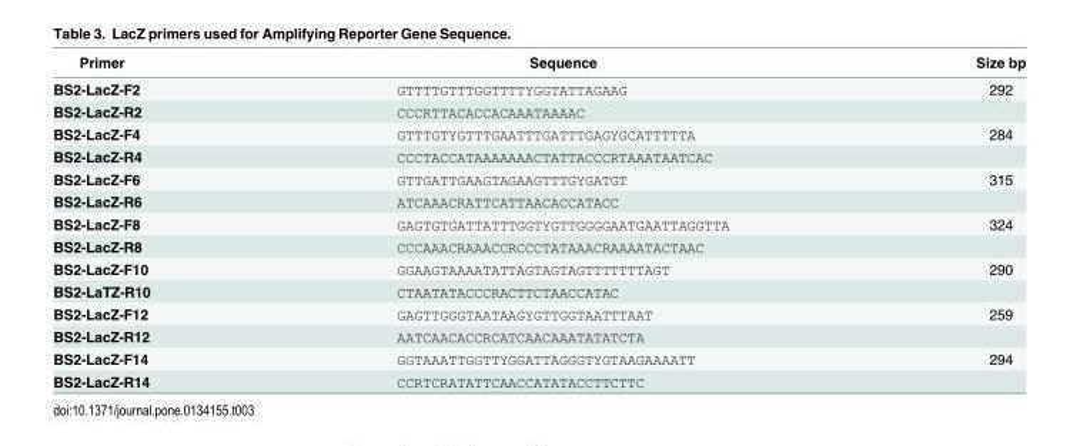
<table><thead><tr><td>Primer</td><td>Sequence</td><td>Size bp</td></tr></thead><tbody><tr><td>BS2-LacZ-F2</td><td>GTTTTGTTTGGTTTTYGGTATTAGAAG</td><td>292</td></tr><tr><td>BS2-LacZ-R2</td><td>CCCRTTACACCACAAATAAAAC</td><td></td></tr><tr><td>BS2-LacZ-F4</td><td>GTTTGTYGTTTGAATTTGATTTGAGYGCATTTTTA</td><td>284</td></tr><tr><td>BS2-LacZ-R4</td><td>CCCTACCATAAAAAAACTATTACCCRTAAATAATCAC</td><td></td></tr><tr><td>BS2-LacZ-F6</td><td>GTTGATTGAAGTAGAAGTTTGYGATGT</td><td>315</td></tr><tr><td>BS2-LacZ-R6</td><td>ATCAAACRATTCATTAACACCATACC</td><td></td></tr><tr><td>BS2-LacZ-F8</td><td>GAGTGTGATTATTTGGTYGTTGGGGAATGAATTAGGTTA</td><td>324</td></tr><tr><td>BS2-LacZ-R8</td><td>CCCAAACRAAACCRCCCTATAAACRAAAATACTAAC</td><td></td></tr><tr><td>BS2-LacZ-F10</td><td>GGAAGTAAAATATTAGTAGTAGTTTTTTTAGT</td><td>290</td></tr><tr><td>BS2-LaTZ-R10</td><td>CTAATATACCCRACTTCTAACCATAC</td><td></td></tr><tr><td>BS2-LacZ-F12</td><td>GAGTTGGGTAATAAGYGTTGGTAATTTAAT</td><td>259</td></tr><tr><td>BS2-LacZ-R12</td><td>AATCAACACCRCATCAACAAATATATCTA</td><td></td></tr><tr><td>BS2-LacZ-F14</td><td>GGTAAATTGGTTYGGATTAGGGTYGTAAGAAAATT</td><td>294</td></tr><tr><td>BS2-LacZ-R14</td><td>CCRTCRATATTCAACCATATACCTTCTTC</td><td></td></tr></tbody></table>